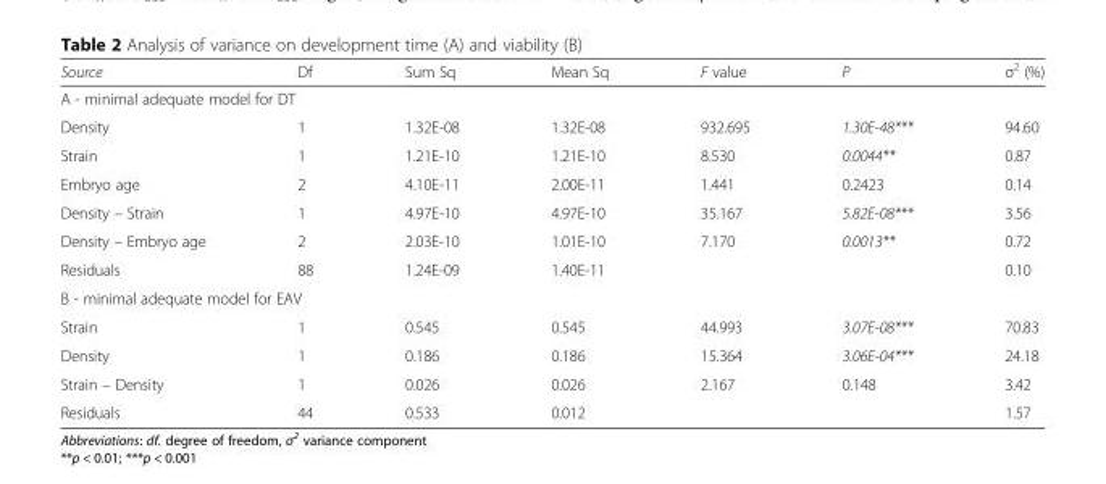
<table><thead><tr><td>Source</td><td>Df</td><td>Sum Sq</td><td>Mean Sq</td><td>F value</td><td>P</td><td>σ<sup>2</sup> (%)</td></tr></thead><tbody><tr><td colspan="7">A - minimal adequate model for DT</td></tr><tr><td>Density</td><td>1</td><td>1.32E-08</td><td>1.32E-08</td><td>932.695</td><td>1.30E-48***</td><td>94.60</td></tr><tr><td>Strain</td><td>1</td><td>1.21E-10</td><td>1.21E-10</td><td>8.530</td><td>0.0044**</td><td>0.87</td></tr><tr><td>Embryo age</td><td>2</td><td>4.10E-11</td><td>2.00E-11</td><td>1.441</td><td>0.2423</td><td>0.14</td></tr><tr><td>Density – Strain</td><td>1</td><td>4.97E-10</td><td>4.97E-10</td><td>35.167</td><td>5.82E-08***</td><td>3.56</td></tr><tr><td>Density – Embryo age</td><td>2</td><td>2.03E-10</td><td>1.01E-10</td><td>7.170</td><td>0.0013**</td><td>0.72</td></tr><tr><td>Residuals</td><td>88</td><td>1.24E-09</td><td>1.40E-11</td><td></td><td></td><td>0.10</td></tr><tr><td colspan="7">B - minimal adequate model for EAV</td></tr><tr><td>Strain</td><td>1</td><td>0.545</td><td>0.545</td><td>44.993</td><td>3.07E-08***</td><td>70.83</td></tr><tr><td>Density</td><td>1</td><td>0.186</td><td>0.186</td><td>15.364</td><td>3.06E-04***</td><td>24.18</td></tr><tr><td>Strain – Density</td><td>1</td><td>0.026</td><td>0.026</td><td>2.167</td><td>0.148</td><td>3.42</td></tr><tr><td>Residuals</td><td>44</td><td>0.533</td><td>0.012</td><td></td><td></td><td>1.57</td></tr></tbody></table>